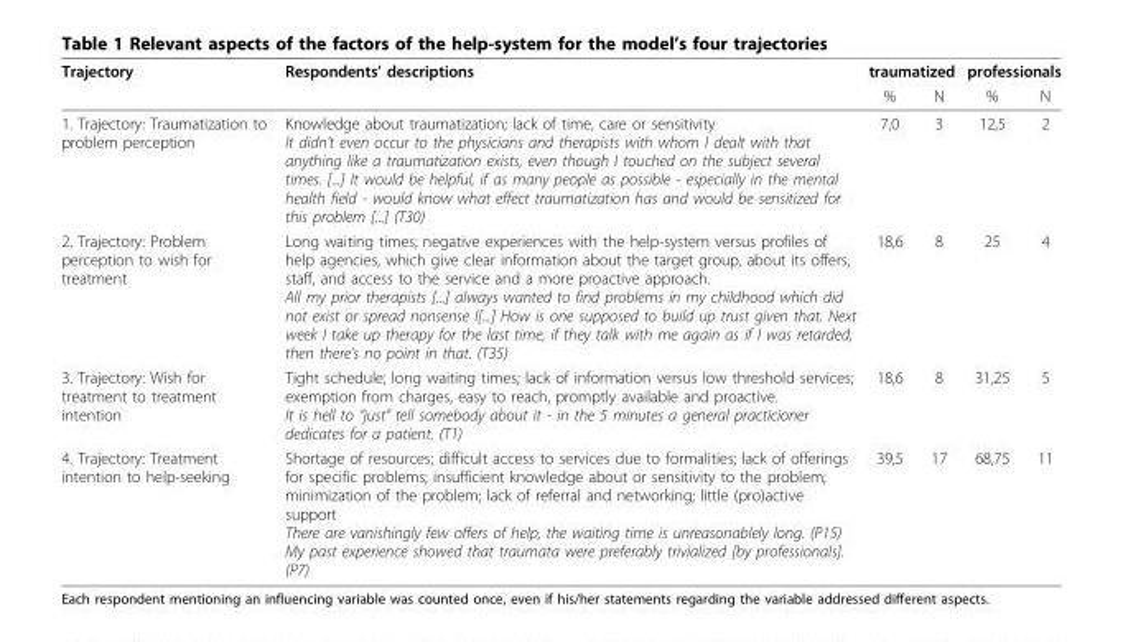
<table><thead><tr><td rowspan="2">Trajectory</td><td rowspan="2">Respondents’ descriptions</td><td colspan="2">traumatized</td><td colspan="2">professionals</td></tr><tr><td>%</td><td>N</td><td>%</td><td>N</td></tr></thead><tbody><tr><td>1. Trajectory: Traumatization to problem perception</td><td>Knowledge about traumatization; lack of time, care or sensitivity It didn’t even occur to the physicians and therapists with whom I dealt with that anything like a traumatization exists, even though I touched on the subject several times. [...] It would be helpful, if as many people as possible - especially in the mental health field - would know what effect traumatization has and would be sensitized for this problem [...] (T30)</td><td>7,0</td><td>3</td><td>12,5</td><td>2</td></tr><tr><td>2. Trajectory: Problem perception to wish for treatment</td><td>Long waiting times; negative experiences with the help-system versus profiles of help agencies, which give clear information about the target group, about its offers, staff, and access to the service and a more proactive approach. All my prior therapists [...] always wanted to find problems in my childhood which did not exist or spread nonsense l[...] How is one supposed to build up trust given that. Next week I take up therapy for the last time, if they talk with me again as if I was retarded, then there’s no point in that. (T35)</td><td>18,6</td><td>8</td><td>25</td><td>4</td></tr><tr><td>3. Trajectory: Wish for treatment to treatment intention</td><td>Tight schedule; long waiting times; lack of information versus low threshold services; exemption from charges, easy to reach, promptly available and proactive. It is hell to “just” tell somebody about it - in the 5 minutes a general practicioner dedicates for a patient. (T1)</td><td>18,6</td><td>8</td><td>31,25</td><td>5</td></tr><tr><td>4. Trajectory: Treatment intention to help-seeking</td><td>Shortage of resources; difficult access to services due to formalities; lack of offerings for specific problems; insufficient knowledge about or sensitivity to the problem; minimization of the problem; lack of referral and networking; little (pro)active support There are vanishingly few offers of help, the waiting time is unreasonablely long. (P15) My past experience showed that traumata were preferably trivialized [by professionals]. (P7)</td><td>39,5</td><td>17</td><td>68,75</td><td>11</td></tr></tbody></table>